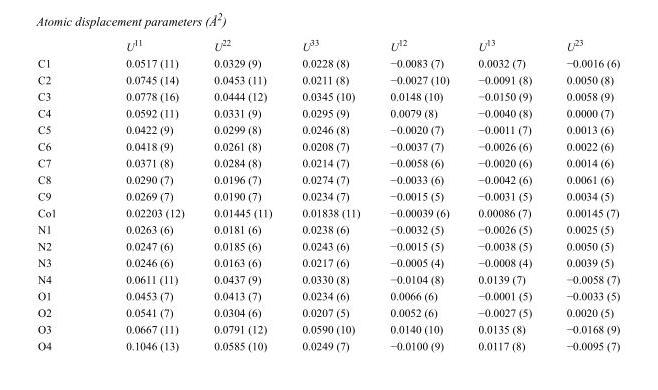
<table><thead><tr><td></td><td>U<sup>11</sup></td><td>U<sup>22</sup></td><td>U<sup>33</sup></td><td>U<sup>12</sup></td><td>U<sup>13</sup></td><td>U<sup>23</sup></td></tr></thead><tbody><tr><td>C1</td><td>0.0517 (11)</td><td>0.0329 (9)</td><td>0.0228 (8)</td><td>−0.0083 (7)</td><td>0.0032 (7)</td><td>−0.0016 (6)</td></tr><tr><td>C2</td><td>0.0745 (14)</td><td>0.0453 (11)</td><td>0.0211 (8)</td><td>−0.0027 (10)</td><td>−0.0091 (8)</td><td>0.0050 (8)</td></tr><tr><td>C3</td><td>0.0778 (16)</td><td>0.0444 (12)</td><td>0.0345 (10)</td><td>0.0148 (10)</td><td>−0.0150 (9)</td><td>0.0058 (9)</td></tr><tr><td>C4</td><td>0.0592 (11)</td><td>0.0331 (9)</td><td>0.0295 (9)</td><td>0.0079 (8)</td><td>−0.0040 (8)</td><td>0.0000 (7)</td></tr><tr><td>C5</td><td>0.0422 (9)</td><td>0.0299 (8)</td><td>0.0246 (8)</td><td>−0.0020 (7)</td><td>−0.0011 (7)</td><td>0.0013 (6)</td></tr><tr><td>C6</td><td>0.0418 (9)</td><td>0.0261 (8)</td><td>0.0208 (7)</td><td>−0.0037 (7)</td><td>−0.0026 (6)</td><td>0.0022 (6)</td></tr><tr><td>C7</td><td>0.0371 (8)</td><td>0.0284 (8)</td><td>0.0214 (7)</td><td>−0.0058 (6)</td><td>−0.0020 (6)</td><td>0.0014 (6)</td></tr><tr><td>C8</td><td>0.0290 (7)</td><td>0.0196 (7)</td><td>0.0274 (7)</td><td>−0.0033 (6)</td><td>−0.0042 (6)</td><td>0.0061 (6)</td></tr><tr><td>C9</td><td>0.0269 (7)</td><td>0.0190 (7)</td><td>0.0234 (7)</td><td>−0.0015 (5)</td><td>−0.0031 (5)</td><td>0.0034 (5)</td></tr><tr><td>Co1</td><td>0.02203 (12)</td><td>0.01445 (11)</td><td>0.01838 (11)</td><td>−0.00039 (6)</td><td>0.00086 (7)</td><td>0.00145 (7)</td></tr><tr><td>N1</td><td>0.0263 (6)</td><td>0.0181 (6)</td><td>0.0238 (6)</td><td>−0.0032 (5)</td><td>−0.0026 (5)</td><td>0.0025 (5)</td></tr><tr><td>N2</td><td>0.0247 (6)</td><td>0.0185 (6)</td><td>0.0243 (6)</td><td>−0.0015 (5)</td><td>−0.0038 (5)</td><td>0.0050 (5)</td></tr><tr><td>N3</td><td>0.0246 (6)</td><td>0.0163 (6)</td><td>0.0217 (6)</td><td>−0.0005 (4)</td><td>−0.0008 (4)</td><td>0.0039 (5)</td></tr><tr><td>N4</td><td>0.0611 (11)</td><td>0.0437 (9)</td><td>0.0330 (8)</td><td>−0.0104 (8)</td><td>0.0139 (7)</td><td>−0.0058 (7)</td></tr><tr><td>O1</td><td>0.0453 (7)</td><td>0.0413 (7)</td><td>0.0234 (6)</td><td>0.0066 (6)</td><td>−0.0001 (5)</td><td>−0.0033 (5)</td></tr><tr><td>O2</td><td>0.0541 (7)</td><td>0.0304 (6)</td><td>0.0207 (5)</td><td>0.0052 (6)</td><td>−0.0027 (5)</td><td>0.0020 (5)</td></tr><tr><td>O3</td><td>0.0667 (11)</td><td>0.0791 (12)</td><td>0.0590 (10)</td><td>0.0140 (10)</td><td>0.0135 (8)</td><td>−0.0168 (9)</td></tr><tr><td>O4</td><td>0.1046 (13)</td><td>0.0585 (10)</td><td>0.0249 (7)</td><td>−0.0100 (9)</td><td>0.0117 (8)</td><td>−0.0095 (7)</td></tr></tbody></table>